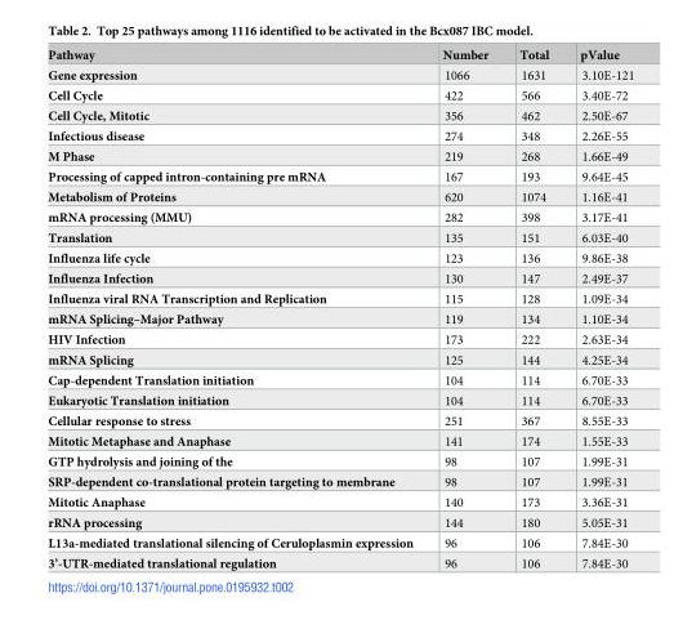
<table><thead><tr><td>Pathway</td><td>Number</td><td>Total</td><td>pValue</td></tr></thead><tbody><tr><td>Gene expression</td><td>1066</td><td>1631</td><td>3.10E-121</td></tr><tr><td>Cell Cycle</td><td>422</td><td>566</td><td>3.40E-72</td></tr><tr><td>Cell Cycle, Mitotic</td><td>356</td><td>462</td><td>2.50E-67</td></tr><tr><td>Infectious disease</td><td>274</td><td>348</td><td>2.26E-55</td></tr><tr><td>M Phase</td><td>219</td><td>268</td><td>1.66E-49</td></tr><tr><td>Processing of capped intron-containing pre mRNA</td><td>167</td><td>193</td><td>9.64E-45</td></tr><tr><td>Metabolism of Proteins</td><td>620</td><td>1074</td><td>1.16E-41</td></tr><tr><td>mRNA processing (MMU)</td><td>282</td><td>398</td><td>3.17E-41</td></tr><tr><td>Translation</td><td>135</td><td>151</td><td>6.03E-40</td></tr><tr><td>Influenza life cycle</td><td>123</td><td>136</td><td>9.86E-38</td></tr><tr><td>Influenza Infection</td><td>130</td><td>147</td><td>2.49E-37</td></tr><tr><td>Influenza viral RNA Transcription and Replication</td><td>115</td><td>128</td><td>1.09E-34</td></tr><tr><td>mRNA Splicing–Major Pathway</td><td>119</td><td>134</td><td>1.10E-34</td></tr><tr><td>HIV Infection</td><td>173</td><td>222</td><td>2.63E-34</td></tr><tr><td>mRNA Splicing</td><td>125</td><td>144</td><td>4.25E-34</td></tr><tr><td>Cap-dependent Translation initiation</td><td>104</td><td>114</td><td>6.70E-33</td></tr><tr><td>Eukaryotic Translation initiation</td><td>104</td><td>114</td><td>6.70E-33</td></tr><tr><td>Cellular response to stress</td><td>251</td><td>367</td><td>8.55E-33</td></tr><tr><td>Mitotic Metaphase and Anaphase</td><td>141</td><td>174</td><td>1.55E-33</td></tr><tr><td>GTP hydrolysis and joining of the</td><td>98</td><td>107</td><td>1.99E-31</td></tr><tr><td>SRP-dependent co-translational protein targeting to membrane</td><td>98</td><td>107</td><td>1.99E-31</td></tr><tr><td>Mitotic Anaphase</td><td>140</td><td>173</td><td>3.36E-31</td></tr><tr><td>rRNA processing</td><td>144</td><td>180</td><td>5.05E-31</td></tr><tr><td>L13a-mediated translational silencing of Ceruloplasmin expression</td><td>96</td><td>106</td><td>7.84E-30</td></tr><tr><td>3’-UTR-mediated translational regulation</td><td>96</td><td>106</td><td>7.84E-30</td></tr></tbody></table>